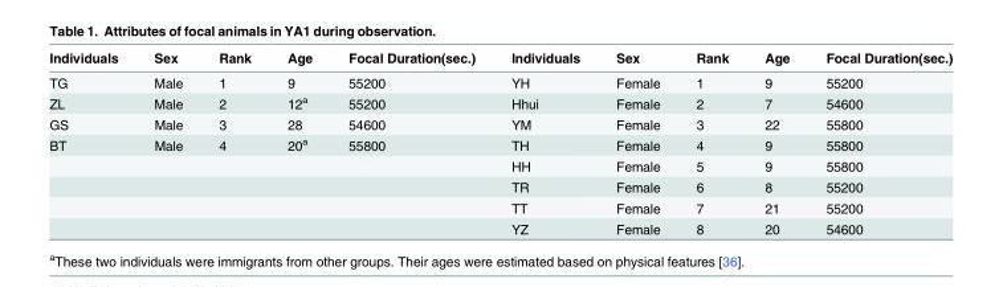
<table><thead><tr><td>Individuals</td><td>Sex</td><td>Rank</td><td>Age</td><td>Focal Duration(sec.)</td><td>Individuals</td><td>Sex</td><td>Rank</td><td>Age</td><td>Focal Duration(sec.)</td></tr></thead><tbody><tr><td>TG</td><td>Male</td><td>1</td><td>9</td><td>55200</td><td>YH</td><td>Female</td><td>1</td><td>9</td><td>55200</td></tr><tr><td>ZL</td><td>Male</td><td>2</td><td>12<sup>a</sup></td><td>55200</td><td>Hhui</td><td>Female</td><td>2</td><td>7</td><td>54600</td></tr><tr><td>GS</td><td>Male</td><td>3</td><td>28</td><td>54600</td><td>YM</td><td>Female</td><td>3</td><td>22</td><td>55800</td></tr><tr><td rowspan="5">BT</td><td>Male</td><td>4</td><td>20<sup>a</sup></td><td>55800</td><td>TH</td><td>Female</td><td>4</td><td>9</td><td>55800</td></tr><tr><td></td><td></td><td></td><td></td><td>HH</td><td>Female</td><td>5</td><td>9</td><td>55800</td></tr><tr><td></td><td></td><td></td><td></td><td>TR</td><td>Female</td><td>6</td><td>8</td><td>55200</td></tr><tr><td></td><td></td><td></td><td></td><td>TT</td><td>Female</td><td>7</td><td>21</td><td>55200</td></tr><tr><td></td><td></td><td></td><td></td><td>YZ</td><td>Female</td><td>8</td><td>20</td><td>54600</td></tr></tbody></table>